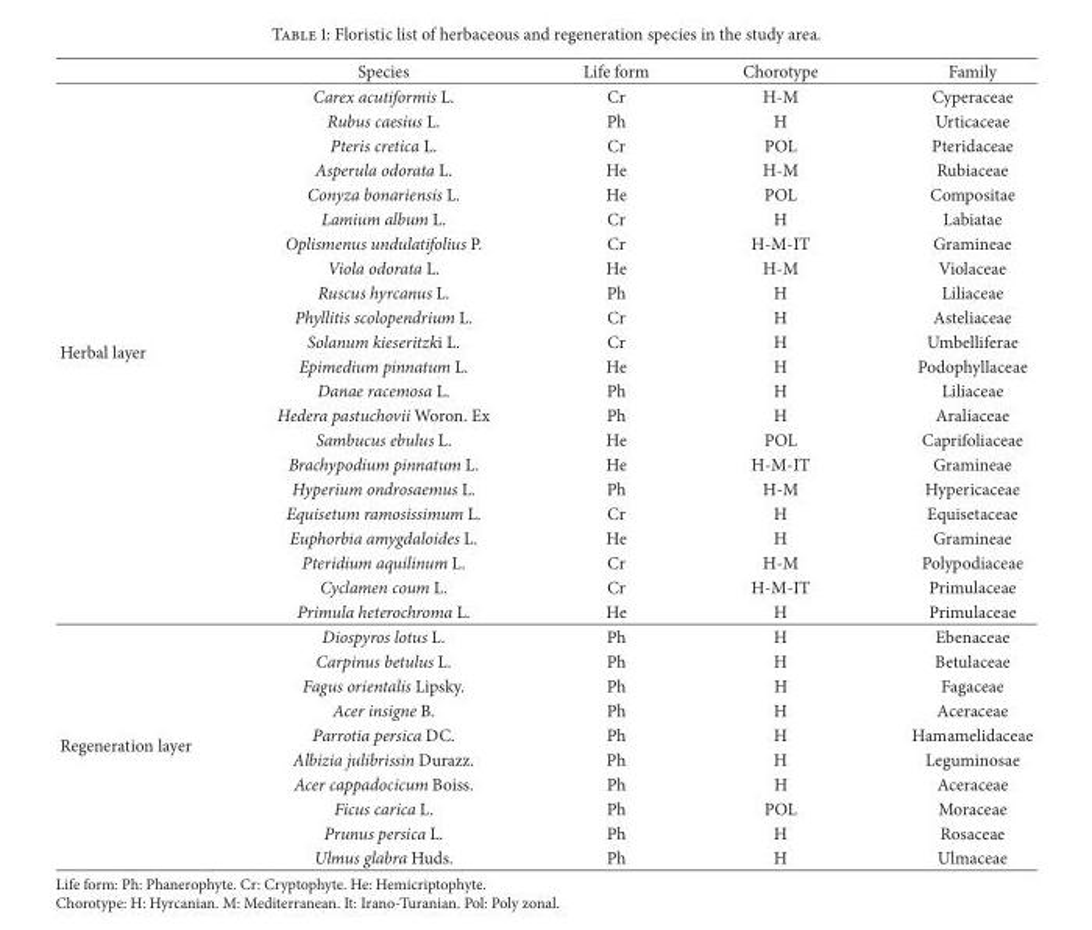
<table><thead><tr><td></td><td>Species</td><td>Life form</td><td>Chorotype</td><td>Family</td></tr></thead><tbody><tr><td rowspan="22">Herbal layer</td><td>Carex acutiformis L.</td><td>Cr</td><td>H-M</td><td>Cyperaceae</td></tr><tr><td>Rubus caesius L.</td><td>Ph</td><td>H</td><td>Urticaceae</td></tr><tr><td>Pteris cretica L.</td><td>Cr</td><td>POL</td><td>Pteridaceae</td></tr><tr><td>Asperula odorata L.</td><td>He</td><td>H-M</td><td>Rubiaceae</td></tr><tr><td>Conyza bonariensis L.</td><td>He</td><td>POL</td><td>Compositae</td></tr><tr><td>Lamium album L.</td><td>Cr</td><td>H</td><td>Labiatae</td></tr><tr><td>Oplismenus undulatifolius P.</td><td>Cr</td><td>H-M-IT</td><td>Gramineae</td></tr><tr><td>Viola odorata L.</td><td>He</td><td>H-M</td><td>Violaceae</td></tr><tr><td>Ruscus hyrcanus L.</td><td>Ph</td><td>H</td><td>Liliaceae</td></tr><tr><td>Phyllitis scolopendrium L.</td><td>Cr</td><td>H</td><td>Asteliaceae</td></tr><tr><td>Solanum kieseritzki L.</td><td>Cr</td><td>H</td><td>Umbelliferae</td></tr><tr><td>Epimedium pinnatum L.</td><td>He</td><td>H</td><td>Podophyllaceae</td></tr><tr><td>Danae racemosa L.</td><td>Ph</td><td>H</td><td>Liliaceae</td></tr><tr><td>Hedera pastuchovii Woron. Ex</td><td>Ph</td><td>H</td><td>Araliaceae</td></tr><tr><td>Sambucus ebulus L.</td><td>He</td><td>POL</td><td>Caprifoliaceae</td></tr><tr><td>Brachypodium pinnatum L.</td><td>He</td><td>H-M-IT</td><td>Gramineae</td></tr><tr><td>Hyperium ondrosaemus L.</td><td>Ph</td><td>H-M</td><td>Hypericaceae</td></tr><tr><td>Equisetum ramosissimum L.</td><td>Cr</td><td>H</td><td>Equisetaceae</td></tr><tr><td>Euphorbia amygdaloides L.</td><td>He</td><td>H</td><td>Gramineae</td></tr><tr><td>Pteridium aquilinum L.</td><td>Cr</td><td>H-M</td><td>Polypodiaceae</td></tr><tr><td>Cyclamen coum L.</td><td>Cr</td><td>H-M-IT</td><td>Primulaceae</td></tr><tr><td>Primula heterochroma L.</td><td>He</td><td>H</td><td>Primulaceae</td></tr><tr><td rowspan="10">Regeneration layer</td><td>Diospyros lotus L.</td><td>Ph</td><td>H</td><td>Ebenaceae</td></tr><tr><td>Carpinus betulus L.</td><td>Ph</td><td>H</td><td>Betulaceae</td></tr><tr><td>Fagus orientalis Lipsky.</td><td>Ph</td><td>H</td><td>Fagaceae</td></tr><tr><td>Acer insigne B.</td><td>Ph</td><td>H</td><td>Aceraceae</td></tr><tr><td>Parrotia persica DC.</td><td>Ph</td><td>H</td><td>Hamamelidaceae</td></tr><tr><td>Albizia julibrissin Durazz.</td><td>Ph</td><td>H</td><td>Leguminosae</td></tr><tr><td>Acer cappadocicum Boiss.</td><td>Ph</td><td>H</td><td>Aceraceae</td></tr><tr><td>Ficus carica L.</td><td>Ph</td><td>POL</td><td>Moraceae</td></tr><tr><td>Prunus persica L.</td><td>Ph</td><td>H</td><td>Rosaceae</td></tr><tr><td>Ulmus glabra Huds.</td><td>Ph</td><td>H</td><td>Ulmaceae</td></tr></tbody></table>